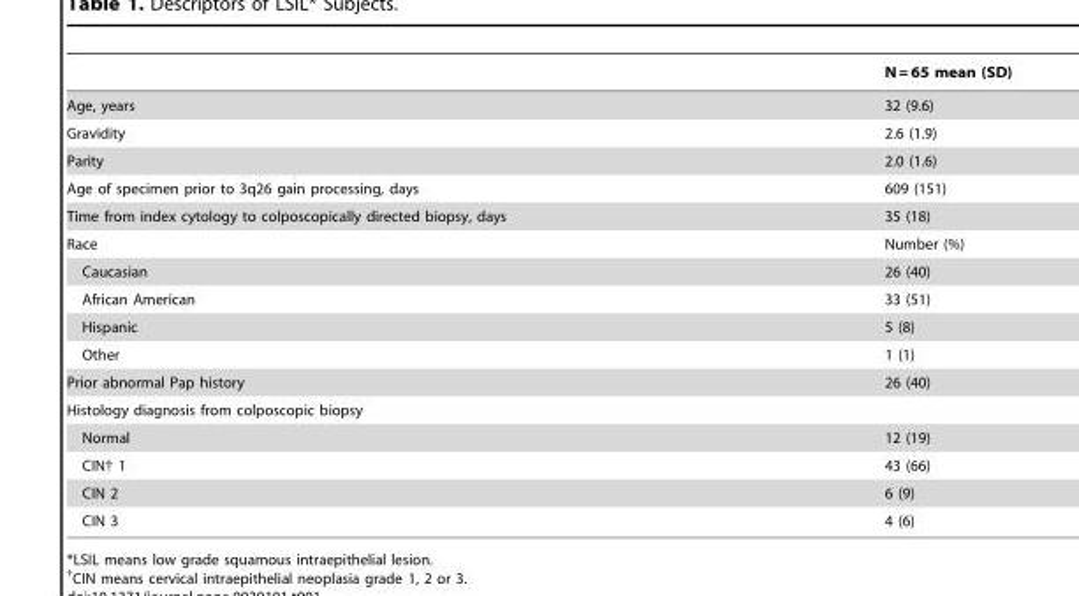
<table><thead><tr><td></td><td>N = 65 mean (SD)</td></tr></thead><tbody><tr><td>Age, years</td><td>32 (9.6)</td></tr><tr><td>Gravidity</td><td>2.6 (1.9)</td></tr><tr><td>Parity</td><td>2.0 (1.6)</td></tr><tr><td>Age of specimen prior to 3q26 gain processing, days</td><td>609 (151)</td></tr><tr><td>Time from index cytology to colposcopically directed biopsy, days</td><td>35 (18)</td></tr><tr><td>Race</td><td>Number (%)</td></tr><tr><td>Caucasian</td><td>26 (40)</td></tr><tr><td>African American</td><td>33 (51)</td></tr><tr><td>Hispanic</td><td>5 (8)</td></tr><tr><td>Other</td><td>1 (1)</td></tr><tr><td>Prior abnormal Pap history</td><td>26 (40)</td></tr><tr><td colspan="2">Histology diagnosis from colposcopic biopsy</td></tr><tr><td>Normal</td><td>12 (19)</td></tr><tr><td>CIN† 1</td><td>43 (66)</td></tr><tr><td>CIN 2</td><td>6 (9)</td></tr><tr><td>CIN 3</td><td>4 (6)</td></tr></tbody></table>